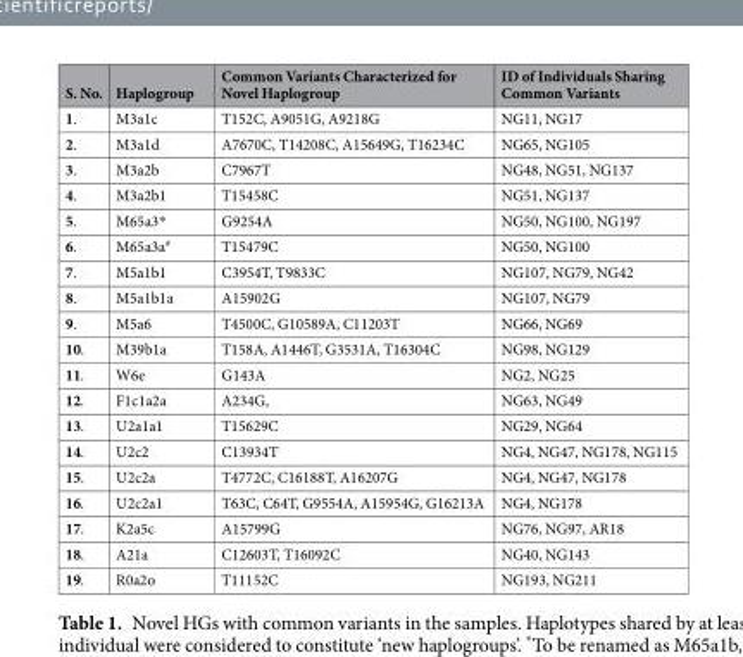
<table><thead><tr><td>S. No.</td><td>Haplogroup</td><td>Common Variants Characterized for Novel Haplogroup</td><td>ID of Individuals Sharing Common Variants</td></tr></thead><tbody><tr><td>1.</td><td>M3a1c</td><td>T152C, A9051G, A9218G</td><td>NG11, NG17</td></tr><tr><td>2.</td><td>M3a1d</td><td>A7670C, T14208C, A15649G, T16234C</td><td>NG65, NG105</td></tr><tr><td>3.</td><td>M3a2b</td><td>C7967T</td><td>NG48, NG51, NG137</td></tr><tr><td>4.</td><td>M3a2b1</td><td>T15458C</td><td>NG51, NG137</td></tr><tr><td>5.</td><td>M65a3*</td><td>G9254A</td><td>NG50, NG100, NG197</td></tr><tr><td>6.</td><td>M65a3a<sup>#</sup></td><td>T15479C</td><td>NG50, NG100</td></tr><tr><td>7.</td><td>M5a1b1</td><td>C3954T, T9833C</td><td>NG107, NG79, NG42</td></tr><tr><td>8.</td><td>M5a1b1a</td><td>A15902G</td><td>NG107, NG79</td></tr><tr><td>9.</td><td>M5a6</td><td>T4500C, G10589A, C11203T</td><td>NG66, NG69</td></tr><tr><td>10.</td><td>M39b1a</td><td>T158A, A1446T, G3531A, T16304C</td><td>NG98, NG129</td></tr><tr><td>11.</td><td>W6e</td><td>G143A</td><td>NG2, NG25</td></tr><tr><td>12.</td><td>F1c1a2a</td><td>A234G,</td><td>NG63, NG49</td></tr><tr><td>13.</td><td>U2a1a1</td><td>T15629C</td><td>NG29, NG64</td></tr><tr><td>14.</td><td>U2c2</td><td>C13934T</td><td>NG4, NG47, NG178, NG115</td></tr><tr><td>15.</td><td>U2c2a</td><td>T4772C, C16188T, A16207G</td><td>NG4, NG47, NG178</td></tr><tr><td>16.</td><td>U2c2a1</td><td>T63C, C64T, G9554A, A15954G, G16213A</td><td>NG4, NG178</td></tr><tr><td>17.</td><td>K2a5c</td><td>A15799G</td><td>NG76, NG97, AR18</td></tr><tr><td>18.</td><td>A21a</td><td>C12603T, T16092C</td><td>NG40, NG143</td></tr><tr><td>19.</td><td>R0a2o</td><td>T11152C</td><td>NG193, NG211</td></tr></tbody></table>